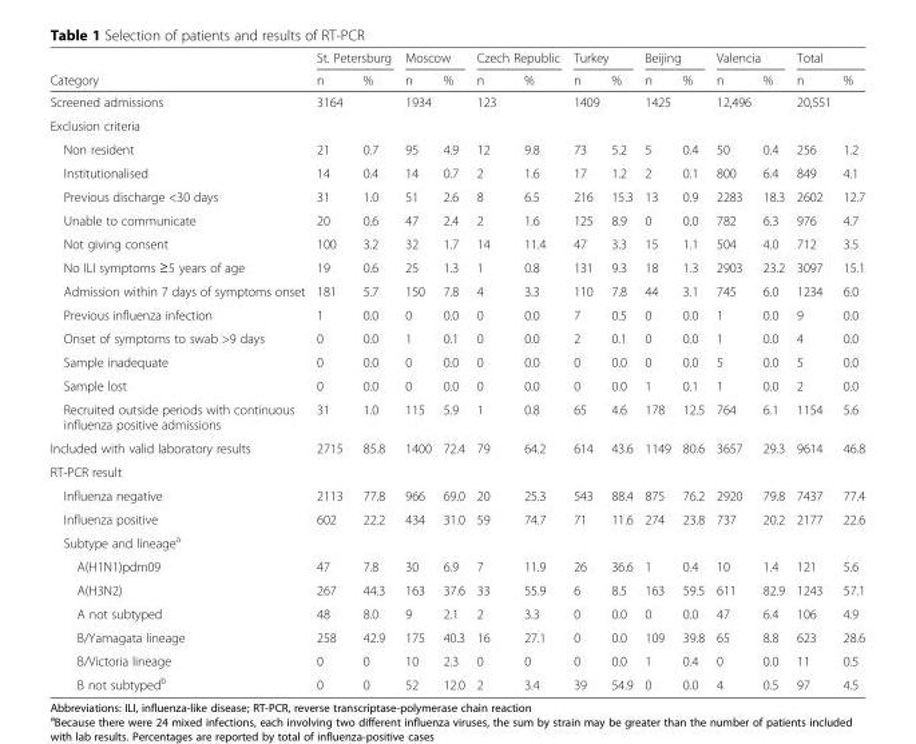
<table><thead><tr><td rowspan="2">Category</td><td colspan="2">St. Petersburg</td><td colspan="2">Moscow</td><td colspan="2">Czech Republic</td><td colspan="2">Turkey</td><td colspan="2">Beijing</td><td colspan="2">Valencia</td><td colspan="2">Total</td></tr><tr><td>n</td><td>%</td><td>n</td><td>%</td><td>n</td><td>%</td><td>n</td><td>%</td><td>n</td><td>%</td><td>n</td><td>%</td><td>n</td><td>%</td></tr></thead><tbody><tr><td>Screened admissions</td><td>3164</td><td></td><td>1934</td><td></td><td>123</td><td></td><td>1409</td><td></td><td>1425</td><td></td><td>12,496</td><td></td><td>20,551</td><td></td></tr><tr><td colspan="15">Exclusion criteria</td></tr><tr><td>Non resident</td><td>21</td><td>0.7</td><td>95</td><td>4.9</td><td>12</td><td>9.8</td><td>73</td><td>5.2</td><td>5</td><td>0.4</td><td>50</td><td>0.4</td><td>256</td><td>1.2</td></tr><tr><td>Institutionalised</td><td>14</td><td>0.4</td><td>14</td><td>0.7</td><td>2</td><td>1.6</td><td>17</td><td>1.2</td><td>2</td><td>0.1</td><td>800</td><td>6.4</td><td>849</td><td>4.1</td></tr><tr><td>Previous discharge &lt;30 days</td><td>31</td><td>1.0</td><td>51</td><td>2.6</td><td>8</td><td>6.5</td><td>216</td><td>15.3</td><td>13</td><td>0.9</td><td>2283</td><td>18.3</td><td>2602</td><td>12.7</td></tr><tr><td>Unable to communicate</td><td>20</td><td>0.6</td><td>47</td><td>2.4</td><td>2</td><td>1.6</td><td>125</td><td>8.9</td><td>0</td><td>0.0</td><td>782</td><td>6.3</td><td>976</td><td>4.7</td></tr><tr><td>Not giving consent</td><td>100</td><td>3.2</td><td>32</td><td>1.7</td><td>14</td><td>11.4</td><td>47</td><td>3.3</td><td>15</td><td>1.1</td><td>504</td><td>4.0</td><td>712</td><td>3.5</td></tr><tr><td>No ILI symptoms ≥5 years of age</td><td>19</td><td>0.6</td><td>25</td><td>1.3</td><td>1</td><td>0.8</td><td>131</td><td>9.3</td><td>18</td><td>1.3</td><td>2903</td><td>23.2</td><td>3097</td><td>15.1</td></tr><tr><td>Admission within 7 days of symptoms onset</td><td>181</td><td>5.7</td><td>150</td><td>7.8</td><td>4</td><td>3.3</td><td>110</td><td>7.8</td><td>44</td><td>3.1</td><td>745</td><td>6.0</td><td>1234</td><td>6.0</td></tr><tr><td>Previous influenza infection</td><td>1</td><td>0.0</td><td>0</td><td>0.0</td><td>0</td><td>0.0</td><td>7</td><td>0.5</td><td>0</td><td>0.0</td><td>1</td><td>0.0</td><td>9</td><td>0.0</td></tr><tr><td>Onset of symptoms to swab &gt;9 days</td><td>0</td><td>0.0</td><td>1</td><td>0.1</td><td>0</td><td>0.0</td><td>2</td><td>0.1</td><td>0</td><td>0.0</td><td>1</td><td>0.0</td><td>4</td><td>0.0</td></tr><tr><td>Sample inadequate</td><td>0</td><td>0.0</td><td>0</td><td>0.0</td><td>0</td><td>0.0</td><td>0</td><td>0.0</td><td>0</td><td>0.0</td><td>5</td><td>0.0</td><td>5</td><td>0.0</td></tr><tr><td>Sample lost</td><td>0</td><td>0.0</td><td>0</td><td>0.0</td><td>0</td><td>0.0</td><td>0</td><td>0.0</td><td>1</td><td>0.1</td><td>1</td><td>0.0</td><td>2</td><td>0.0</td></tr><tr><td>Recruited outside periods with continuous influenza positive admissions</td><td>31</td><td>1.0</td><td>115</td><td>5.9</td><td>1</td><td>0.8</td><td>65</td><td>4.6</td><td>178</td><td>12.5</td><td>764</td><td>6.1</td><td>1154</td><td>5.6</td></tr><tr><td>Included with valid laboratory results</td><td>2715</td><td>85.8</td><td>1400</td><td>72.4</td><td>79</td><td>64.2</td><td>614</td><td>43.6</td><td>1149</td><td>80.6</td><td>3657</td><td>29.3</td><td>9614</td><td>46.8</td></tr><tr><td colspan="15">RT-PCR result</td></tr><tr><td>Influenza negative</td><td>2113</td><td>77.8</td><td>966</td><td>69.0</td><td>20</td><td>25.3</td><td>543</td><td>88.4</td><td>875</td><td>76.2</td><td>2920</td><td>79.8</td><td>7437</td><td>77.4</td></tr><tr><td>Influenza positive</td><td>602</td><td>22.2</td><td>434</td><td>31.0</td><td>59</td><td>74.7</td><td>71</td><td>11.6</td><td>274</td><td>23.8</td><td>737</td><td>20.2</td><td>2177</td><td>22.6</td></tr><tr><td colspan="15">Subtype and lineage<sup>a</sup></td></tr><tr><td>A(H1N1)pdm09</td><td>47</td><td>7.8</td><td>30</td><td>6.9</td><td>7</td><td>11.9</td><td>26</td><td>36.6</td><td>1</td><td>0.4</td><td>10</td><td>1.4</td><td>121</td><td>5.6</td></tr><tr><td>A(H3N2)</td><td>267</td><td>44.3</td><td>163</td><td>37.6</td><td>33</td><td>55.9</td><td>6</td><td>8.5</td><td>163</td><td>59.5</td><td>611</td><td>82.9</td><td>1243</td><td>57.1</td></tr><tr><td>A not subtyped</td><td>48</td><td>8.0</td><td>9</td><td>2.1</td><td>2</td><td>3.3</td><td>0</td><td>0.0</td><td>0</td><td>0.0</td><td>47</td><td>6.4</td><td>106</td><td>4.9</td></tr><tr><td>B/Yamagata lineage</td><td>258</td><td>42.9</td><td>175</td><td>40.3</td><td>16</td><td>27.1</td><td>0</td><td>0.0</td><td>109</td><td>39.8</td><td>65</td><td>8.8</td><td>623</td><td>28.6</td></tr><tr><td>B/Victoria lineage</td><td>0</td><td>0</td><td>10</td><td>2.3</td><td>0</td><td>0</td><td>0</td><td>0.0</td><td>1</td><td>0.4</td><td>0</td><td>0.0</td><td>11</td><td>0.5</td></tr><tr><td>B not subtyped<sup>b</sup></td><td>0</td><td>0</td><td>52</td><td>12.0</td><td>2</td><td>3.4</td><td>39</td><td>54.9</td><td>0</td><td>0.0</td><td>4</td><td>0.5</td><td>97</td><td>4.5</td></tr></tbody></table>